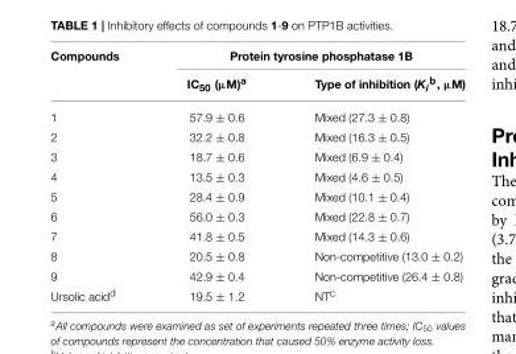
<table><thead><tr><td rowspan="2">Compounds</td><td colspan="2">Protein tyrosine phosphatase 1B</td></tr><tr><td>IC<sub>50</sub> (µM)<sup>a</sup></td><td>Type of inhibition (K<sub>i</sub><sup>b</sup>, µM)</td></tr></thead><tbody><tr><td>1</td><td>57.9 ± 0.6</td><td>Mixed (27.3 ± 0.8)</td></tr><tr><td>2</td><td>32.2 ± 0.8</td><td>Mixed (16.3 ± 0.5)</td></tr><tr><td>3</td><td>18.7 ± 0.6</td><td>Mixed (6.9 ± 0.4)</td></tr><tr><td>4</td><td>13.5 ± 0.3</td><td>Mixed (4.6 ± 0.5)</td></tr><tr><td>5</td><td>28.4 ± 0.9</td><td>Mixed (10.1 ± 0.4)</td></tr><tr><td>6</td><td>56.0 ± 0.3</td><td>Mixed (22.8 ± 0.7)</td></tr><tr><td>7</td><td>41.8 ± 0.5</td><td>Mixed (14.3 ± 0.6)</td></tr><tr><td>8</td><td>20.5 ± 0.8</td><td>Non-competitive (13.0 ± 0.2)</td></tr><tr><td>9</td><td>42.9 ± 0.4</td><td>Non-competitive (26.4 ± 0.8)</td></tr><tr><td>Ursolic acid<sup>d</sup></td><td>19.5 ± 1.2</td><td>NT<sup>c</sup></td></tr></tbody></table>